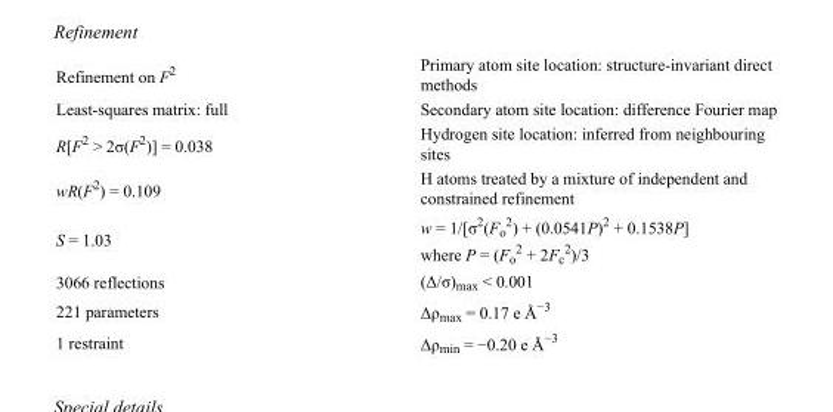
<table><tbody><tr><td>Refinement on F<sup>2</sup></td><td>Primary atom site location: structure-invariant direct methods</td></tr><tr><td>Least-squares matrix: full</td><td>Secondary atom site location: difference Fourier map</td></tr><tr><td>R[F<sup>2</sup> &gt; 2σ(F<sup>2</sup>)] = 0.038</td><td>Hydrogen site location: inferred from neighbouring sites</td></tr><tr><td>wR(F<sup>2</sup>) = 0.109</td><td>H atoms treated by a mixture of independent and constrained refinement</td></tr><tr><td>S = 1.03</td><td>w = 1/[σ<sup>2</sup>(F<sub>o</sub> <sup>2</sup>) + (0.0541P)<sup>2</sup> + 0.1538P] where P = (F<sub>o</sub> <sup>2</sup> + 2F<sub>c</sub> <sup>2</sup>)/3</td></tr><tr><td>3066 reflections</td><td>(Δ/σ)<sub>max</sub> &lt; 0.001</td></tr><tr><td>221 parameters</td><td>Δρ<sub>max</sub> = 0.17 e Å<sup>−3</sup></td></tr><tr><td>1 restraint</td><td>Δρ<sub>min</sub> = −0.20 e Å<sup>−3</sup></td></tr></tbody></table>